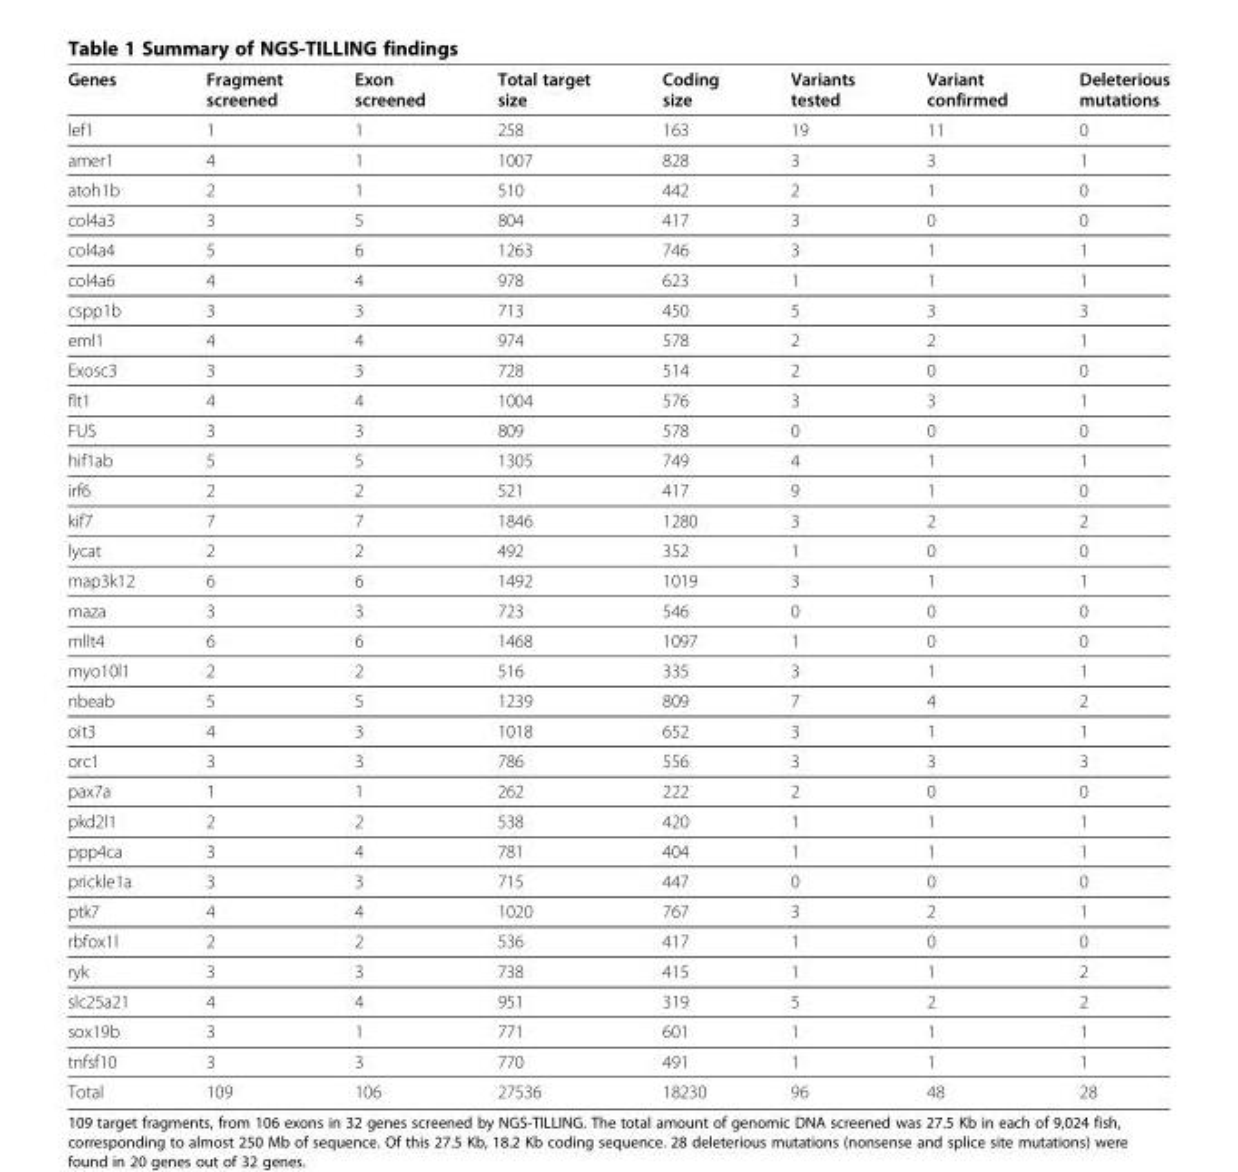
<table><thead><tr><td>Genes</td><td>Fragment screened</td><td>Exon screened</td><td>Total target size</td><td>Coding size</td><td>Variants tested</td><td>Variant confirmed</td><td>Deleterious mutations</td></tr></thead><tbody><tr><td>lef1</td><td>1</td><td>1</td><td>258</td><td>163</td><td>19</td><td>11</td><td>0</td></tr><tr><td>amer1</td><td>4</td><td>1</td><td>1007</td><td>828</td><td>3</td><td>3</td><td>1</td></tr><tr><td>atoh1b</td><td>2</td><td>1</td><td>510</td><td>442</td><td>2</td><td>1</td><td>0</td></tr><tr><td>col4a3</td><td>3</td><td>5</td><td>804</td><td>417</td><td>3</td><td>0</td><td>0</td></tr><tr><td>col4a4</td><td>5</td><td>6</td><td>1263</td><td>746</td><td>3</td><td>1</td><td>1</td></tr><tr><td>col4a6</td><td>4</td><td>4</td><td>978</td><td>623</td><td>1</td><td>1</td><td>1</td></tr><tr><td>cspp1b</td><td>3</td><td>3</td><td>713</td><td>450</td><td>5</td><td>3</td><td>3</td></tr><tr><td>eml1</td><td>4</td><td>4</td><td>974</td><td>578</td><td>2</td><td>2</td><td>1</td></tr><tr><td>Exosc3</td><td>3</td><td>3</td><td>728</td><td>514</td><td>2</td><td>0</td><td>0</td></tr><tr><td>flt1</td><td>4</td><td>4</td><td>1004</td><td>576</td><td>3</td><td>3</td><td>1</td></tr><tr><td>FUS</td><td>3</td><td>3</td><td>809</td><td>578</td><td>0</td><td>0</td><td>0</td></tr><tr><td>hif1ab</td><td>5</td><td>5</td><td>1305</td><td>749</td><td>4</td><td>1</td><td>1</td></tr><tr><td>irf6</td><td>2</td><td>2</td><td>521</td><td>417</td><td>9</td><td>1</td><td>0</td></tr><tr><td>kif7</td><td>7</td><td>7</td><td>1846</td><td>1280</td><td>3</td><td>2</td><td>2</td></tr><tr><td>lycat</td><td>2</td><td>2</td><td>492</td><td>352</td><td>1</td><td>0</td><td>0</td></tr><tr><td>map3k12</td><td>6</td><td>6</td><td>1492</td><td>1019</td><td>3</td><td>1</td><td>1</td></tr><tr><td>maza</td><td>3</td><td>3</td><td>723</td><td>546</td><td>0</td><td>0</td><td>0</td></tr><tr><td>mllt4</td><td>6</td><td>6</td><td>1468</td><td>1097</td><td>1</td><td>0</td><td>0</td></tr><tr><td>myo10l1</td><td>2</td><td>2</td><td>516</td><td>335</td><td>3</td><td>1</td><td>1</td></tr><tr><td>nbeab</td><td>5</td><td>5</td><td>1239</td><td>809</td><td>7</td><td>4</td><td>2</td></tr><tr><td>oit3</td><td>4</td><td>3</td><td>1018</td><td>652</td><td>3</td><td>1</td><td>1</td></tr><tr><td>orc1</td><td>3</td><td>3</td><td>786</td><td>556</td><td>3</td><td>3</td><td>3</td></tr><tr><td>pax7a</td><td>1</td><td>1</td><td>262</td><td>222</td><td>2</td><td>0</td><td>0</td></tr><tr><td>pkd2l1</td><td>2</td><td>2</td><td>538</td><td>420</td><td>1</td><td>1</td><td>1</td></tr><tr><td>ppp4ca</td><td>3</td><td>4</td><td>781</td><td>404</td><td>1</td><td>1</td><td>1</td></tr><tr><td>prickle1a</td><td>3</td><td>3</td><td>715</td><td>447</td><td>0</td><td>0</td><td>0</td></tr><tr><td>ptk7</td><td>4</td><td>4</td><td>1020</td><td>767</td><td>3</td><td>2</td><td>1</td></tr><tr><td>rbfox1l</td><td>2</td><td>2</td><td>536</td><td>417</td><td>1</td><td>0</td><td>0</td></tr><tr><td>ryk</td><td>3</td><td>3</td><td>738</td><td>415</td><td>1</td><td>1</td><td>2</td></tr><tr><td>slc25a21</td><td>4</td><td>4</td><td>951</td><td>319</td><td>5</td><td>2</td><td>2</td></tr><tr><td>sox19b</td><td>3</td><td>1</td><td>771</td><td>601</td><td>1</td><td>1</td><td>1</td></tr><tr><td>tnfsf10</td><td>3</td><td>3</td><td>770</td><td>491</td><td>1</td><td>1</td><td>1</td></tr><tr><td>Total</td><td>109</td><td>106</td><td>27536</td><td>18230</td><td>96</td><td>48</td><td>28</td></tr></tbody></table>